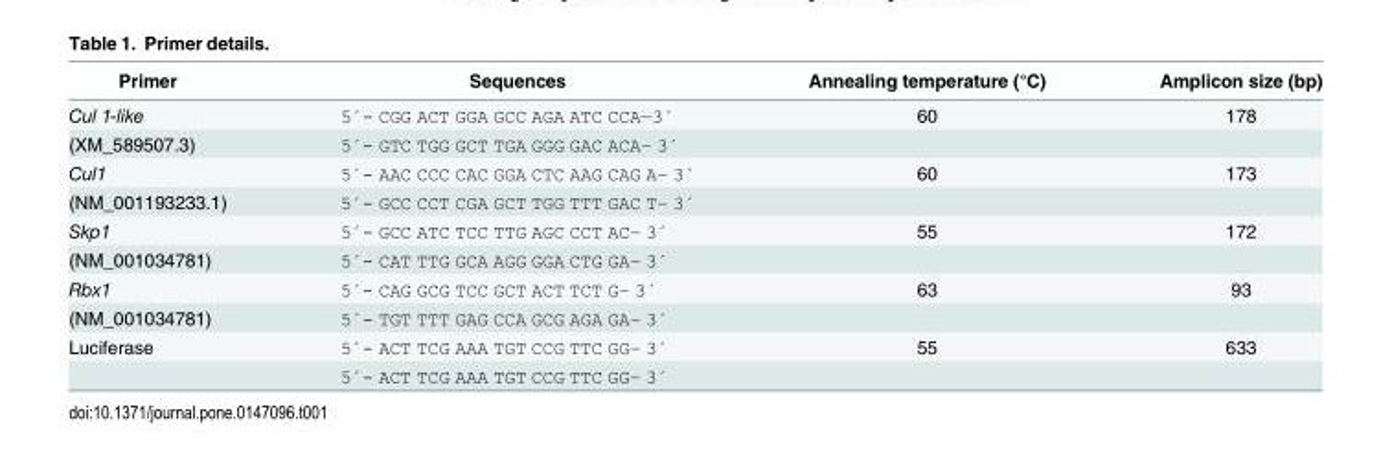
<table><thead><tr><td>Primer</td><td>Sequences</td><td>Annealing temperature (°C)</td><td>Amplicon size (bp)</td></tr></thead><tbody><tr><td>Cul 1-like</td><td>5´- CGG ACT GGA GCC AGA ATC CCA—3´</td><td>60</td><td>178</td></tr><tr><td>(XM_589507.3)</td><td>5´- GTC TGG GCT TGA GGG GAC ACA– 3´</td><td></td><td></td></tr><tr><td>Cul1</td><td>5´- AAC CCC CAC GGA CTC AAG CAG A– 3´</td><td>60</td><td>173</td></tr><tr><td>(NM_001193233.1)</td><td>5´- GCC CCT CGA GCT TGG TTT GAC T– 3´</td><td></td><td></td></tr><tr><td>Skp1</td><td>5´- GCC ATC TCC TTG AGC CCT AC– 3´</td><td>55</td><td>172</td></tr><tr><td>(NM_001034781)</td><td>5´- CAT TTG GCA AGG GGA CTG GA– 3´</td><td></td><td></td></tr><tr><td>Rbx1</td><td>5´- CAG GCG TCC GCT ACT TCT G– 3´</td><td>63</td><td>93</td></tr><tr><td>(NM_001034781)</td><td>5´- TGT TTT GAG CCA GCG AGA GA– 3´</td><td></td><td></td></tr><tr><td rowspan="2">Luciferase</td><td>5´- ACT TCG AAA TGT CCG TTC GG– 3´</td><td>55</td><td>633</td></tr><tr><td>5´- ACT TCG AAA TGT CCG TTC GG– 3´</td><td></td><td></td></tr></tbody></table>